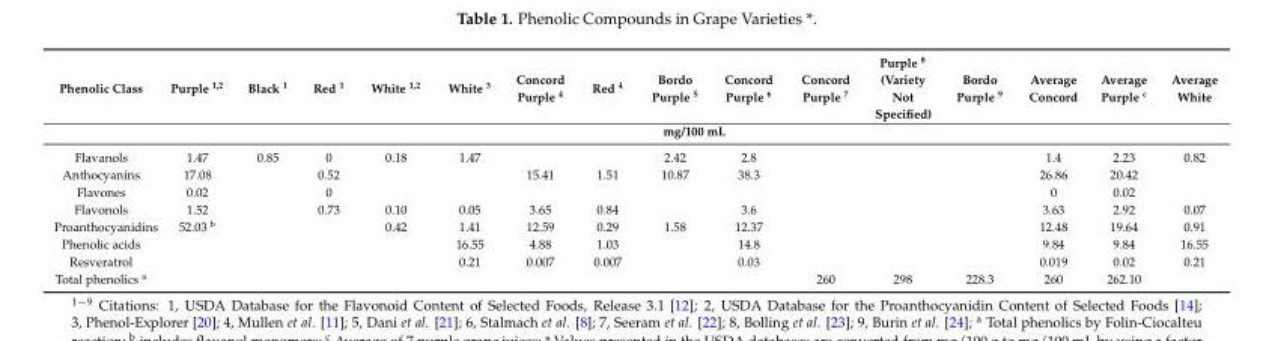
<table><thead><tr><td rowspan="2">Phenolic Class</td><td>Purple <sup>1,2</sup></td><td>Black <sup>1</sup></td><td>Red <sup>1</sup></td><td>White <sup>1,2</sup></td><td>White <sup>3</sup></td><td>Concord Purple <sup>4</sup></td><td>Red <sup>4</sup></td><td>Bordo Purple <sup>5</sup></td><td>Concord Purple <sup>6</sup></td><td>Concord Purple <sup>7</sup></td><td>Purple <sup>8</sup> (Variety Not Specified)</td><td>Bordo Purple <sup>9</sup></td><td>Average Concord</td><td>Average Purple <sup>c</sup></td><td>Average White</td></tr><tr><td colspan="15">mg/100 mL</td></tr></thead><tbody><tr><td>Flavanols</td><td>1.47</td><td>0.85</td><td>0</td><td>0.18</td><td>1.47</td><td></td><td></td><td>2.42</td><td>2.8</td><td></td><td></td><td></td><td>1.4</td><td>2.23</td><td>0.82</td></tr><tr><td>Anthocyanins</td><td>17.08</td><td></td><td>0.52</td><td></td><td></td><td>15.41</td><td>1.51</td><td>10.87</td><td>38.3</td><td></td><td></td><td></td><td>26.86</td><td>20.42</td><td></td></tr><tr><td>Flavones</td><td>0.02</td><td></td><td>0</td><td></td><td></td><td></td><td></td><td></td><td></td><td></td><td></td><td></td><td>0</td><td>0.02</td><td></td></tr><tr><td>Flavonols</td><td>1.52</td><td></td><td>0.73</td><td>0.10</td><td>0.05</td><td>3.65</td><td>0.84</td><td></td><td>3.6</td><td></td><td></td><td></td><td>3.63</td><td>2.92</td><td>0.07</td></tr><tr><td>Proanthocyanidins</td><td>52.03 <sup>b</sup></td><td></td><td></td><td>0.42</td><td>1.41</td><td>12.59</td><td>0.29</td><td>1.58</td><td>12.37</td><td></td><td></td><td></td><td>12.48</td><td>19.64</td><td>0.91</td></tr><tr><td>Phenolic acids</td><td></td><td></td><td></td><td></td><td>16.55</td><td>4.88</td><td>1.03</td><td></td><td>14.8</td><td></td><td></td><td></td><td>9.84</td><td>9.84</td><td>16.55</td></tr><tr><td>Resveratrol</td><td></td><td></td><td></td><td></td><td>0.21</td><td>0.007</td><td>0.007</td><td></td><td>0.03</td><td></td><td></td><td></td><td>0.019</td><td>0.02</td><td>0.21</td></tr><tr><td>Total phenolics <sup>a</sup></td><td></td><td></td><td></td><td></td><td></td><td></td><td></td><td></td><td></td><td>260</td><td>298</td><td>228.3</td><td>260</td><td>262.10</td><td></td></tr></tbody></table>